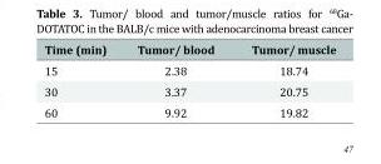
<table><thead><tr><td>Time (min)</td><td>Tumor/ blood</td><td>Tumor/ muscle</td></tr></thead><tbody><tr><td>15</td><td>2.38</td><td>18.74</td></tr><tr><td>30</td><td>3.37</td><td>20.75</td></tr><tr><td>60</td><td>9.92</td><td>19.82</td></tr></tbody></table>